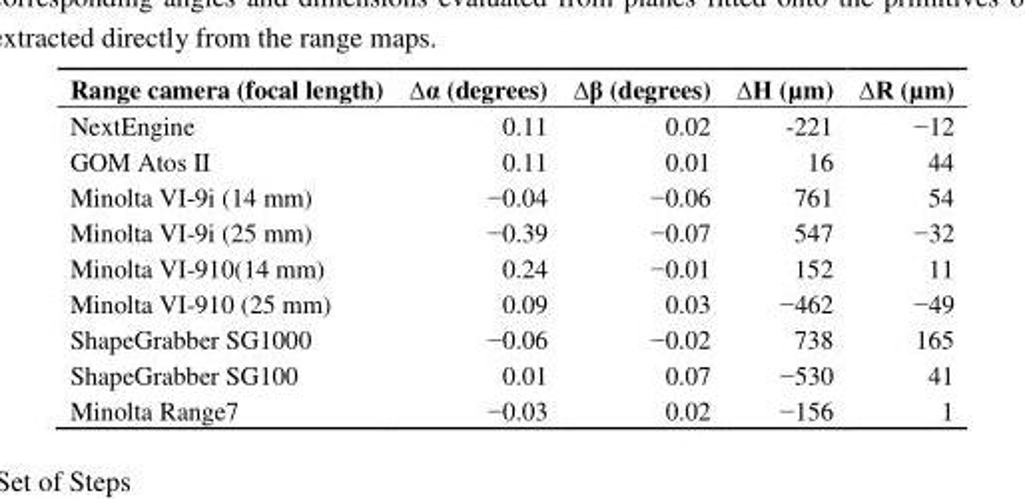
<table><thead><tr><td>Range camera (focal length)</td><td>∆α (degrees)</td><td>∆β (degrees)</td><td>∆H (µm)</td><td>∆R (µm)</td></tr></thead><tbody><tr><td>NextEngine</td><td>0.11</td><td>0.02</td><td>-221</td><td>−12</td></tr><tr><td>GOM Atos II</td><td>0.11</td><td>0.01</td><td>16</td><td>44</td></tr><tr><td>Minolta VI-9i (14 mm)</td><td>−0.04</td><td>−0.06</td><td>761</td><td>54</td></tr><tr><td>Minolta VI-9i (25 mm)</td><td>−0.39</td><td>−0.07</td><td>547</td><td>−32</td></tr><tr><td>Minolta VI-910(14 mm)</td><td>0.24</td><td>−0.01</td><td>152</td><td>11</td></tr><tr><td>Minolta VI-910 (25 mm)</td><td>0.09</td><td>0.03</td><td>−462</td><td>−49</td></tr><tr><td>ShapeGrabber SG1000</td><td>−0.06</td><td>−0.02</td><td>738</td><td>165</td></tr><tr><td>ShapeGrabber SG100</td><td>0.01</td><td>0.07</td><td>−530</td><td>41</td></tr><tr><td>Minolta Range7</td><td>−0.03</td><td>0.02</td><td>−156</td><td>1</td></tr></tbody></table>